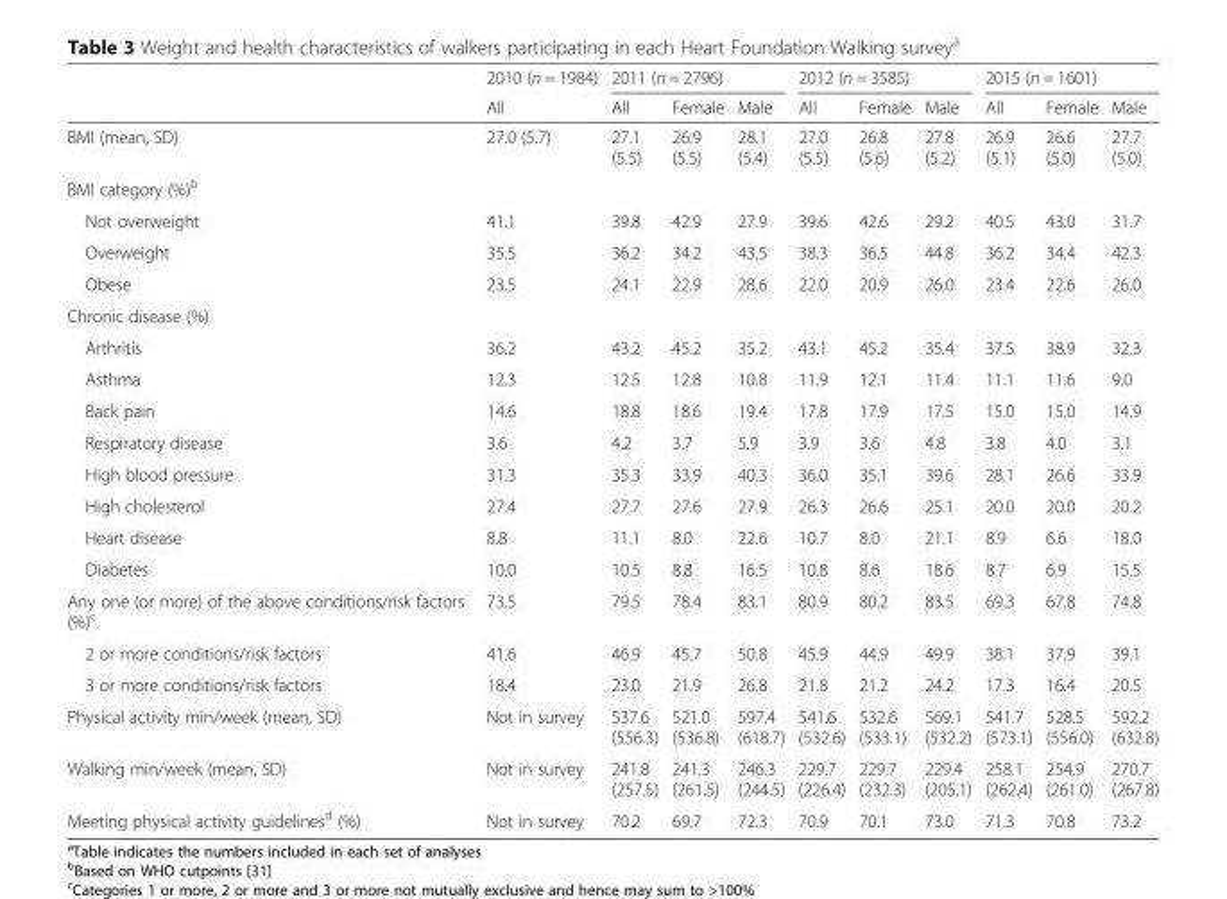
<table><thead><tr><td rowspan="2"></td><td rowspan="2">2010 (n = 1984) All</td><td colspan="3">2011 (n = 2796)</td><td colspan="3">2012 (n = 3585)</td><td colspan="3">2015 (n = 1601)</td></tr><tr><td>All</td><td>Female</td><td>Male</td><td>All</td><td>Female</td><td>Male</td><td>All</td><td>Female</td><td>Male</td></tr></thead><tbody><tr><td>BMI (mean, SD)</td><td>27.0 (5.7)</td><td>27.1 (5.5)</td><td>26.9 (5.5)</td><td>28.1 (5.4)</td><td>27.0 (5.5)</td><td>26.8 (5.6)</td><td>27.8 (5.2)</td><td>26.9 (5.1)</td><td>26.6 (5.0)</td><td>27.7 (5.0)</td></tr><tr><td colspan="11">BMI category (%)<sup>b</sup></td></tr><tr><td>Not overweight</td><td>41.1</td><td>39.8</td><td>42.9</td><td>27.9</td><td>39.6</td><td>42.6</td><td>29.2</td><td>40.5</td><td>43.0</td><td>31.7</td></tr><tr><td>Overweight</td><td>35.5</td><td>36.2</td><td>34.2</td><td>43.5</td><td>38.3</td><td>36.5</td><td>44.8</td><td>36.2</td><td>34.4</td><td>42.3</td></tr><tr><td>Obese</td><td>23.5</td><td>24.1</td><td>22.9</td><td>28.6</td><td>22.0</td><td>20.9</td><td>26.0</td><td>23.4</td><td>22.6</td><td>26.0</td></tr><tr><td colspan="11">Chronic disease (%)</td></tr><tr><td>Arthritis</td><td>36.2</td><td>43.2</td><td>45.2</td><td>35.2</td><td>43.1</td><td>45.2</td><td>35.4</td><td>37.5</td><td>38.9</td><td>32.3</td></tr><tr><td>Asthma</td><td>12.3</td><td>12.5</td><td>12.8</td><td>10.8</td><td>11.9</td><td>12.1</td><td>11.4</td><td>11.1</td><td>11.6</td><td>9.0</td></tr><tr><td>Back pain</td><td>14.6</td><td>18.8</td><td>18.6</td><td>19.4</td><td>17.8</td><td>17.9</td><td>17.5</td><td>15.0</td><td>15.0</td><td>14.9</td></tr><tr><td>Respiratory disease</td><td>3.6</td><td>4.2</td><td>3.7</td><td>5.9</td><td>3.9</td><td>3.6</td><td>4.8</td><td>3.8</td><td>4.0</td><td>3.1</td></tr><tr><td>High blood pressure</td><td>31.3</td><td>35.3</td><td>33.9</td><td>40.3</td><td>36.0</td><td>35.1</td><td>39.6</td><td>28.1</td><td>26.6</td><td>33.9</td></tr><tr><td>High cholesterol</td><td>27.4</td><td>27.7</td><td>27.6</td><td>27.9</td><td>26.3</td><td>26.6</td><td>25.1</td><td>20.0</td><td>20.0</td><td>20.2</td></tr><tr><td>Heart disease</td><td>8.8</td><td>11.1</td><td>8.0</td><td>22.6</td><td>10.7</td><td>8.0</td><td>21.1</td><td>8.9</td><td>6.6</td><td>18.0</td></tr><tr><td>Diabetes</td><td>10.0</td><td>10.5</td><td>8.8</td><td>16.5</td><td>10.8</td><td>8.6</td><td>18.6</td><td>8.7</td><td>6.9</td><td>15.5</td></tr><tr><td>Any one (or more) of the above conditions/risk factors (%)<sup>c</sup></td><td>73.5</td><td>79.5</td><td>78.4</td><td>83.1</td><td>80.9</td><td>80.2</td><td>83.5</td><td>69.3</td><td>67.8</td><td>74.8</td></tr><tr><td>2 or more conditions/risk factors</td><td>41.6</td><td>46.9</td><td>45.7</td><td>50.8</td><td>45.9</td><td>44.9</td><td>49.9</td><td>38.1</td><td>37.9</td><td>39.1</td></tr><tr><td>3 or more conditions/risk factors</td><td>18.4</td><td>23.0</td><td>21.9</td><td>26.8</td><td>21.8</td><td>21.2</td><td>24.2</td><td>17.3</td><td>16.4</td><td>20.5</td></tr><tr><td>Physical activity min/week (mean, SD)</td><td>Not in survey</td><td>537.6 (556.3)</td><td>521.0 (536.8)</td><td>597.4 (618.7)</td><td>541.6 (532.6)</td><td>532.6 (533.1)</td><td>569.1 (532.2)</td><td>541.7 (573.1)</td><td>528.5 (556.0)</td><td>592.2 (632.8)</td></tr><tr><td>Walking min/week (mean, SD)</td><td>Not in survey</td><td>241.8 (257.5)</td><td>241.3 (261.5)</td><td>246.3 (244.5)</td><td>229.7 (226.4)</td><td>229.7 (232.3)</td><td>229.4 (205.1)</td><td>258.1 (262.4)</td><td>254.9 (261.0)</td><td>270.7 (267.8)</td></tr><tr><td>Meeting physical activity guidelines<sup>d</sup> (%)</td><td>Not in survey</td><td>70.2</td><td>69.7</td><td>72.3</td><td>70.9</td><td>70.1</td><td>73.0</td><td>71.3</td><td>70.8</td><td>73.2</td></tr></tbody></table>